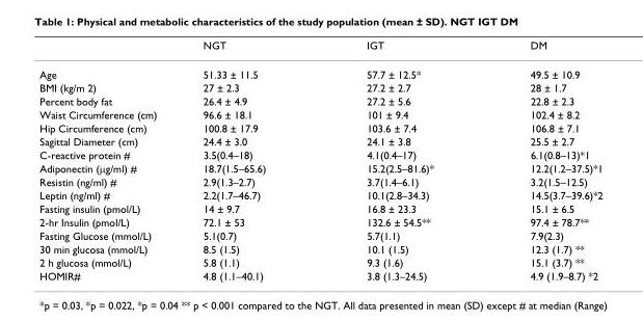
<table><thead><tr><td></td><td>NGT</td><td>IGT</td><td>DM</td></tr></thead><tbody><tr><td>Age</td><td>51.33 ± 11.5</td><td>57.7 ± 12.5*</td><td>49.5 ± 10.9</td></tr><tr><td>BMI (kg/m 2)</td><td>27 ± 2.3</td><td>27.2 ± 2.7</td><td>28 ± 1.7</td></tr><tr><td>Percent body fat</td><td>26.4 ± 4.9</td><td>27.2 ± 5.6</td><td>22.8 ± 2.3</td></tr><tr><td>Waist Circumference (cm)</td><td>96.6 ± 18.1</td><td>101 ± 9.4</td><td>102.4 ± 8.2</td></tr><tr><td>Hip Circumference (cm)</td><td>100.8 ± 17.9</td><td>103.6 ± 7.4</td><td>106.8 ± 7.1</td></tr><tr><td>Sagittal Diameter (cm)</td><td>24.4 ± 3.0</td><td>24.1 ± 3.8</td><td>25.5 ± 2.7</td></tr><tr><td>C-reactive protein #</td><td>3.5(0.4–18)</td><td>4.1(0.4–17)</td><td>6.1(0.8–13)*1</td></tr><tr><td>Adiponectin (µg/ml) #</td><td>18.7(1.5–65.6)</td><td>15.2(2.5–81.6)*</td><td>12.2(1.2–37.5)*1</td></tr><tr><td>Resistin (ng/ml) #</td><td>2.9(1.3–2.7)</td><td>3.7(1.4–6.1)</td><td>3.2(1.5–12.5)</td></tr><tr><td>Leptin (ng/ml) #</td><td>2.2(1.7–46.7)</td><td>10.1(2.8–34.3)</td><td>14.5(3.7–39.6)*2</td></tr><tr><td>Fasting insulin (pmol/L)</td><td>14 ± 9.7</td><td>16.8 ± 23.3</td><td>15.1 ± 6.5</td></tr><tr><td>2-hr Insulin (pmol/L)</td><td>72.1 ± 53</td><td>132.6 ± 54.5**</td><td>97.4 ± 78.7**</td></tr><tr><td>Fasting Glucose (mmol/L)</td><td>5.1(0.7)</td><td>5.7(1.1)</td><td>7.9(2.3)</td></tr><tr><td>30 min glucosa (mmol/L)</td><td>8.5 (1.5)</td><td>10.1 (1.5)</td><td>12.3 (1.7) **</td></tr><tr><td>2 h glucosa (mmol/L)</td><td>5.8 (1.1)</td><td>9.3 (1.6)</td><td>15.1 (3.7) **</td></tr><tr><td>HOMIR#</td><td>4.8 (1.1–40.1)</td><td>3.8 (1.3–24.5)</td><td>4.9 (1.9–8.7) *2</td></tr></tbody></table>